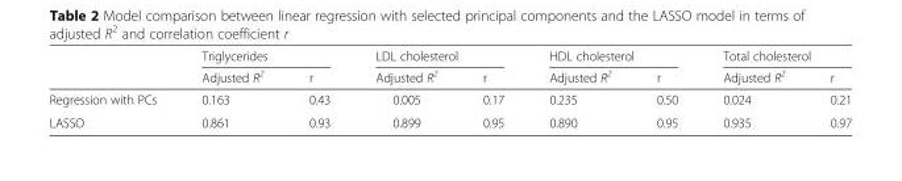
<table><thead><tr><td rowspan="2"></td><td colspan="2">Triglycerides</td><td colspan="2">LDL cholesterol</td><td colspan="2">HDL cholesterol</td><td colspan="2">Total cholesterol</td></tr><tr><td>Adjusted R<sup>2</sup></td><td>r</td><td>Adjusted R<sup>2</sup></td><td>r</td><td>Adjusted R<sup>2</sup></td><td>r</td><td>Adjusted R<sup>2</sup></td><td>r</td></tr></thead><tbody><tr><td>Regression with PCs</td><td>0.163</td><td>0.43</td><td>0.005</td><td>0.17</td><td>0.235</td><td>0.50</td><td>0.024</td><td>0.21</td></tr><tr><td>LASSO</td><td>0.861</td><td>0.93</td><td>0.899</td><td>0.95</td><td>0.890</td><td>0.95</td><td>0.935</td><td>0.97</td></tr></tbody></table>